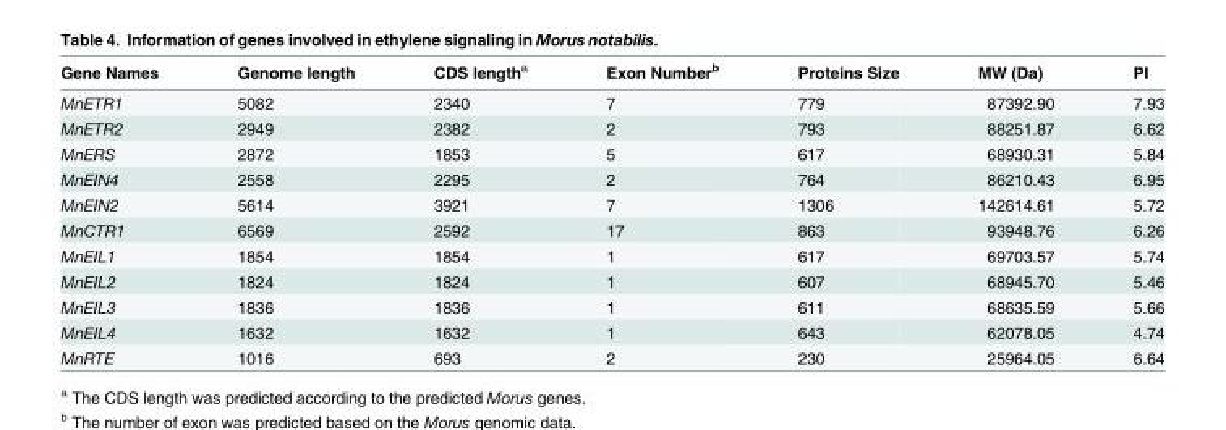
<table><thead><tr><td>Gene Names</td><td>Genome length</td><td>CDS length<sup>a</sup></td><td>Exon Number<sup>b</sup></td><td>Proteins Size</td><td>MW (Da)</td><td>PI</td></tr></thead><tbody><tr><td>MnETR1</td><td>5082</td><td>2340</td><td>7</td><td>779</td><td>87392.90</td><td>7.93</td></tr><tr><td>MnETR2</td><td>2949</td><td>2382</td><td>2</td><td>793</td><td>88251.87</td><td>6.62</td></tr><tr><td>MnERS</td><td>2872</td><td>1853</td><td>5</td><td>617</td><td>68930.31</td><td>5.84</td></tr><tr><td>MnEIN4</td><td>2558</td><td>2295</td><td>2</td><td>764</td><td>86210.43</td><td>6.95</td></tr><tr><td>MnEIN2</td><td>5614</td><td>3921</td><td>7</td><td>1306</td><td>142614.61</td><td>5.72</td></tr><tr><td>MnCTR1</td><td>6569</td><td>2592</td><td>17</td><td>863</td><td>93948.76</td><td>6.26</td></tr><tr><td>MnEIL1</td><td>1854</td><td>1854</td><td>1</td><td>617</td><td>69703.57</td><td>5.74</td></tr><tr><td>MnEIL2</td><td>1824</td><td>1824</td><td>1</td><td>607</td><td>68945.70</td><td>5.46</td></tr><tr><td>MnEIL3</td><td>1836</td><td>1836</td><td>1</td><td>611</td><td>68635.59</td><td>5.66</td></tr><tr><td>MnEIL4</td><td>1632</td><td>1632</td><td>1</td><td>643</td><td>62078.05</td><td>4.74</td></tr><tr><td>MnRTE</td><td>1016</td><td>693</td><td>2</td><td>230</td><td>25964.05</td><td>6.64</td></tr></tbody></table>